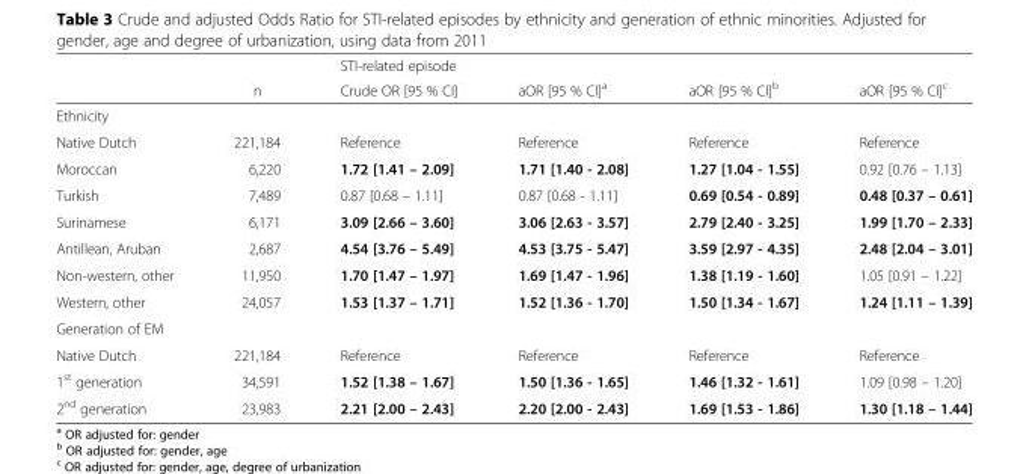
<table><thead><tr><td rowspan="2"></td><td rowspan="2">n</td><td colspan="4">STI-related episode</td></tr><tr><td>Crude OR [95 % CI]</td><td>aOR [95 % CI]<sup>a</sup></td><td>aOR [95 % CI]<sup>b</sup></td><td>aOR [95 % CI]<sup>c</sup></td></tr></thead><tbody><tr><td colspan="6">Ethnicity</td></tr><tr><td>Native Dutch</td><td>221,184</td><td>Reference</td><td>Reference</td><td>Reference</td><td>Reference</td></tr><tr><td>Moroccan</td><td>6,220</td><td>1.72 [1.41 – 2.09]</td><td>1.71 [1.40 - 2.08]</td><td>1.27 [1.04 - 1.55]</td><td>0.92 [0.76 – 1.13]</td></tr><tr><td>Turkish</td><td>7,489</td><td>0.87 [0.68 – 1.11]</td><td>0.87 [0.68 - 1.11]</td><td>0.69 [0.54 - 0.89]</td><td>0.48 [0.37 – 0.61]</td></tr><tr><td>Surinamese</td><td>6,171</td><td>3.09 [2.66 – 3.60]</td><td>3.06 [2.63 - 3.57]</td><td>2.79 [2.40 - 3.25]</td><td>1.99 [1.70 – 2.33]</td></tr><tr><td>Antillean, Aruban</td><td>2,687</td><td>4.54 [3.76 – 5.49]</td><td>4.53 [3.75 - 5.47]</td><td>3.59 [2.97 - 4.35]</td><td>2.48 [2.04 – 3.01]</td></tr><tr><td>Non-western, other</td><td>11,950</td><td>1.70 [1.47 – 1.97]</td><td>1.69 [1.47 - 1.96]</td><td>1.38 [1.19 - 1.60]</td><td>1.05 [0.91 – 1.22]</td></tr><tr><td>Western, other</td><td>24,057</td><td>1.53 [1.37 – 1.71]</td><td>1.52 [1.36 - 1.70]</td><td>1.50 [1.34 - 1.67]</td><td>1.24 [1.11 – 1.39]</td></tr><tr><td colspan="6">Generation of EM</td></tr><tr><td>Native Dutch</td><td>221,184</td><td>Reference</td><td>Reference</td><td>Reference</td><td>Reference</td></tr><tr><td>1<sup>st</sup> generation</td><td>34,591</td><td>1.52 [1.38 – 1.67]</td><td>1.50 [1.36 - 1.65]</td><td>1.46 [1.32 - 1.61]</td><td>1.09 [0.98 – 1.20]</td></tr><tr><td>2<sup>nd</sup> generation</td><td>23,983</td><td>2.21 [2.00 – 2.43]</td><td>2.20 [2.00 - 2.43]</td><td>1.69 [1.53 - 1.86]</td><td>1.30 [1.18 – 1.44]</td></tr></tbody></table>